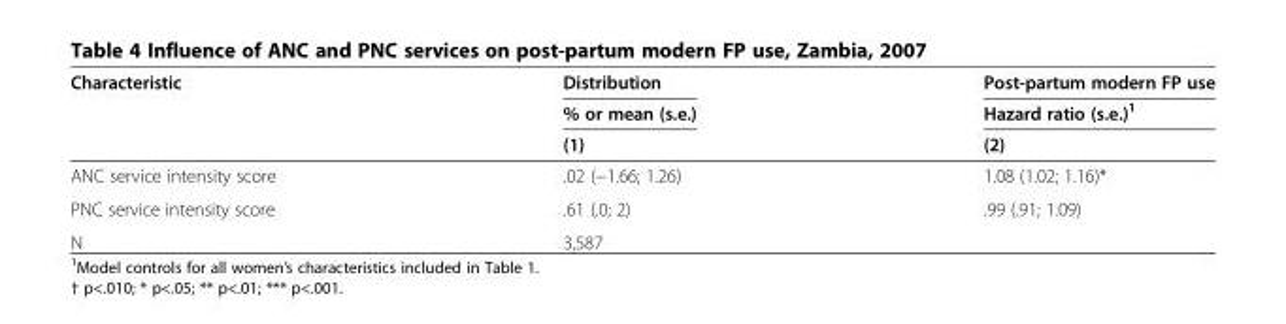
<table><thead><tr><td rowspan="3">Characteristic</td><td rowspan="3">Distribution % or mean (s.e.) (1)</td><td rowspan="3">Post-partum modern FP use Hazard ratio (s.e.)<sup>1</sup> (2)</td></tr><tr></tr><tr></tr></thead><tbody><tr><td>ANC service intensity score</td><td>.02 (−1.66; 1.26)</td><td>1.08 (1.02; 1.16)*</td></tr><tr><td>PNC service intensity score</td><td>.61 (.0; 2)</td><td>.99 (.91; 1.09)</td></tr><tr><td>N</td><td>3,587</td><td></td></tr></tbody></table>